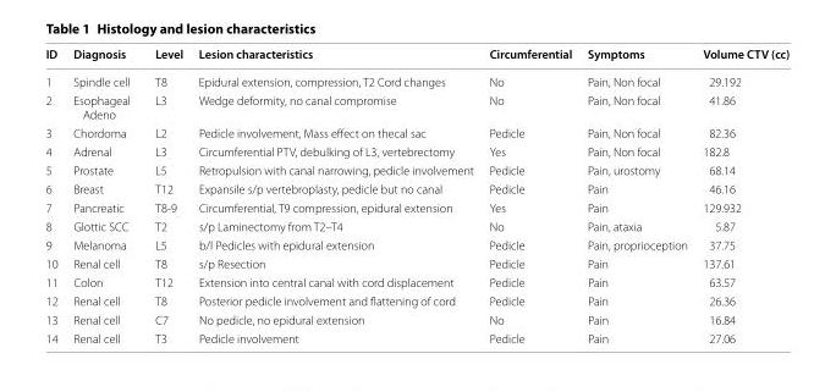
<table><thead><tr><td>ID</td><td>Diagnosis</td><td>Level</td><td>Lesion characteristics</td><td>Circumferential</td><td>Symptoms</td><td>Volume CTV (cc)</td></tr></thead><tbody><tr><td>1</td><td>Spindle cell</td><td>T8</td><td>Epidural extension, compression, T2 Cord changes</td><td>No</td><td>Pain, Non focal</td><td>29.192</td></tr><tr><td>2</td><td>Esophageal Adeno</td><td>L3</td><td>Wedge deformity, no canal compromise</td><td>No</td><td>Pain, Non focal</td><td>41.86</td></tr><tr><td>3</td><td>Chordoma</td><td>L2</td><td>Pedicle involvement, Mass effect on thecal sac</td><td>Pedicle</td><td>Pain, Non focal</td><td>82.36</td></tr><tr><td>4</td><td>Adrenal</td><td>L3</td><td>Circumferential PTV, debulking of L3, vertebrectomy</td><td>Yes</td><td>Pain, Non focal</td><td>182.8</td></tr><tr><td>5</td><td>Prostate</td><td>L5</td><td>Retropulsion with canal narrowing, pedicle involvement</td><td>Pedicle</td><td>Pain, urostomy</td><td>68.14</td></tr><tr><td>6</td><td>Breast</td><td>T12</td><td>Expansile s/p vertebroplasty, pedicle but no canal</td><td>Pedicle</td><td>Pain</td><td>46.16</td></tr><tr><td>7</td><td>Pancreatic</td><td>T8‑9</td><td>Circumferential, T9 compression, epidural extension</td><td>Yes</td><td>Pain</td><td>129.932</td></tr><tr><td>8</td><td>Glottic SCC</td><td>T2</td><td>s/p Laminectomy from T2–T4</td><td>No</td><td>Pain, ataxia</td><td>5.87</td></tr><tr><td>9</td><td>Melanoma</td><td>L5</td><td>b/l Pedicles with epidural extension</td><td>Pedicle</td><td>Pain, proprioception</td><td>37.75</td></tr><tr><td>10</td><td>Renal cell</td><td>T8</td><td>s/p Resection</td><td>Pedicle</td><td>Pain</td><td>137.61</td></tr><tr><td>11</td><td>Colon</td><td>T12</td><td>Extension into central canal with cord displacement</td><td>Pedicle</td><td>Pain</td><td>63.57</td></tr><tr><td>12</td><td>Renal cell</td><td>T8</td><td>Posterior pedicle involvement and flattening of cord</td><td>Pedicle</td><td>Pain</td><td>26.36</td></tr><tr><td>13</td><td>Renal cell</td><td>C7</td><td>No pedicle, no epidural extension</td><td>No</td><td>Pain</td><td>16.84</td></tr><tr><td>14</td><td>Renal cell</td><td>T3</td><td>Pedicle involvement</td><td>Pedicle</td><td>Pain</td><td>27.06</td></tr></tbody></table>